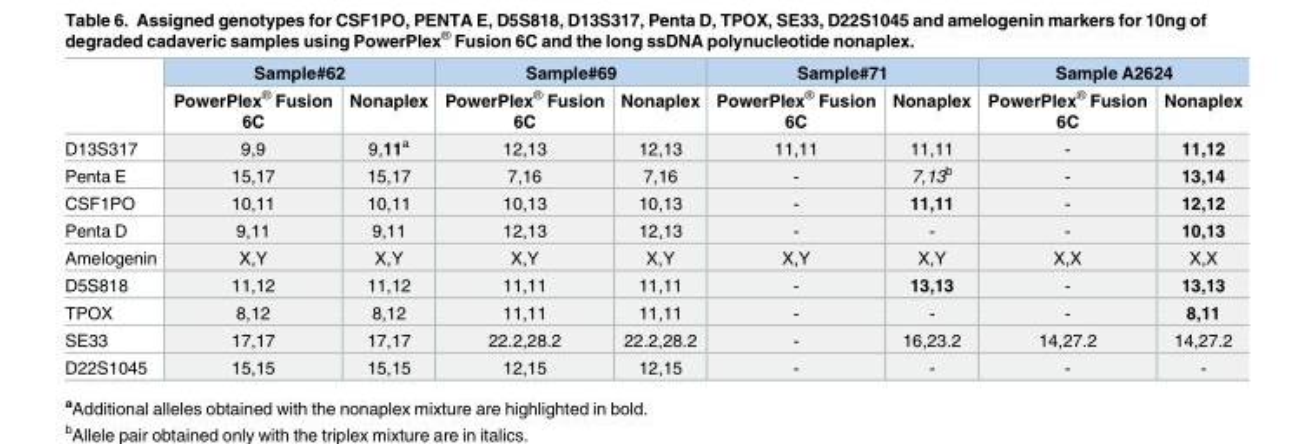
<table><thead><tr><td rowspan="2"></td><td colspan="2">Sample#62</td><td colspan="2">Sample#69</td><td colspan="2">Sample#71</td><td colspan="2">Sample A2624</td></tr><tr><td>PowerPlex<sup>®</sup> Fusion 6C</td><td>Nonaplex</td><td>PowerPlex<sup>®</sup> Fusion 6C</td><td>Nonaplex</td><td>PowerPlex<sup>®</sup> Fusion 6C</td><td>Nonaplex</td><td>PowerPlex<sup>®</sup> Fusion 6C</td><td>Nonaplex</td></tr></thead><tbody><tr><td>D13S317</td><td>9,9</td><td>9,11<sup>a</sup></td><td>12,13</td><td>12,13</td><td>11,11</td><td>11,11</td><td>-</td><td>11,12</td></tr><tr><td>Penta E</td><td>15,17</td><td>15,17</td><td>7,16</td><td>7,16</td><td>-</td><td>7,13<sup>b</sup></td><td>-</td><td>13,14</td></tr><tr><td>CSF1PO</td><td>10,11</td><td>10,11</td><td>10,13</td><td>10,13</td><td>-</td><td>11,11</td><td>-</td><td>12,12</td></tr><tr><td>Penta D</td><td>9,11</td><td>9,11</td><td>12,13</td><td>12,13</td><td>-</td><td>-</td><td>-</td><td>10,13</td></tr><tr><td>Amelogenin</td><td>X,Y</td><td>X,Y</td><td>X,Y</td><td>X,Y</td><td>X,Y</td><td>X,Y</td><td>X,X</td><td>X,X</td></tr><tr><td>D5S818</td><td>11,12</td><td>11,12</td><td>11,11</td><td>11,11</td><td>-</td><td>13,13</td><td>-</td><td>13,13</td></tr><tr><td>TPOX</td><td>8,12</td><td>8,12</td><td>11,11</td><td>11,11</td><td>-</td><td>-</td><td>-</td><td>8,11</td></tr><tr><td>SE33</td><td>17,17</td><td>17,17</td><td>22.2,28.2</td><td>22.2,28.2</td><td>-</td><td>16,23.2</td><td>14,27.2</td><td>14,27.2</td></tr><tr><td>D22S1045</td><td>15,15</td><td>15,15</td><td>12,15</td><td>12,15</td><td>-</td><td>-</td><td>-</td><td>-</td></tr></tbody></table>